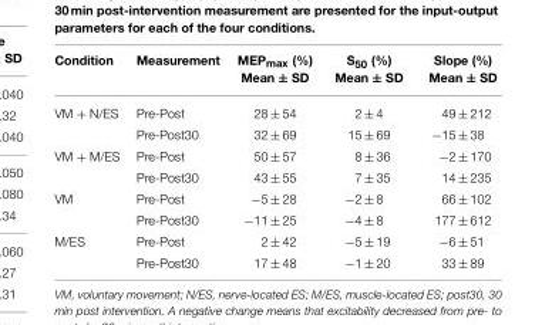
<table><thead><tr><td>Condition</td><td>Measurement</td><td>MEP<sub>max</sub> (%) Mean ± SD</td><td>S<sub>50</sub> (%) Mean ± SD</td><td>Slope (%) Mean ± SD</td></tr></thead><tbody><tr><td rowspan="2">VM + N/ES</td><td>Pre-Post</td><td>28 ± 54</td><td>2 ± 4</td><td>49 ± 212</td></tr><tr><td>Pre-Post30</td><td>32 ± 69</td><td>15 ± 69</td><td>−15 ± 38</td></tr><tr><td rowspan="2">VM + M/ES</td><td>Pre-Post</td><td>50 ± 57</td><td>8 ± 36</td><td>−2 ± 170</td></tr><tr><td>Pre-Post30</td><td>43 ± 55</td><td>7 ± 35</td><td>14 ± 235</td></tr><tr><td rowspan="2">VM</td><td>Pre-Post</td><td>−5 ± 28</td><td>−2 ± 8</td><td>66 ± 102</td></tr><tr><td>Pre-Post30</td><td>−11 ± 25</td><td>−4 ± 8</td><td>177 ± 612</td></tr><tr><td rowspan="2">M/ES</td><td>Pre-Post</td><td>2 ± 42</td><td>−5 ± 19</td><td>−6 ± 51</td></tr><tr><td>Pre-Post30</td><td>17 ± 48</td><td>−1 ± 20</td><td>33 ± 89</td></tr></tbody></table>